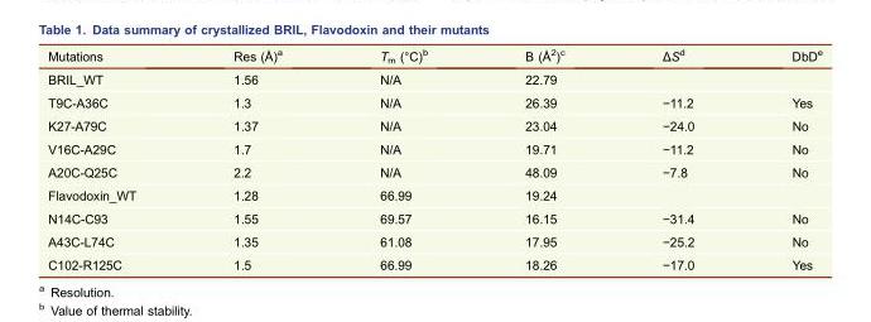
<table><thead><tr><td>Mutations</td><td>Res (Å)<sup>a</sup></td><td>T<sub>m</sub> (°C)<sup>b</sup></td><td>B (Å<sup>2</sup>)<sup>c</sup></td><td>ΔS<sup>d</sup></td><td>DbD<sup>e</sup></td></tr></thead><tbody><tr><td>BRIL_WT</td><td>1.56</td><td>N/A</td><td>22.79</td><td></td><td></td></tr><tr><td>T9C-A36C</td><td>1.3</td><td>N/A</td><td>26.39</td><td>−11.2</td><td>Yes</td></tr><tr><td>K27-A79C</td><td>1.37</td><td>N/A</td><td>23.04</td><td>−24.0</td><td>No</td></tr><tr><td>V16C-A29C</td><td>1.7</td><td>N/A</td><td>19.71</td><td>−11.2</td><td>No</td></tr><tr><td>A20C-Q25C</td><td>2.2</td><td>N/A</td><td>48.09</td><td>−7.8</td><td>No</td></tr><tr><td>Flavodoxin_WT</td><td>1.28</td><td>66.99</td><td>19.24</td><td></td><td></td></tr><tr><td>N14C-C93</td><td>1.55</td><td>69.57</td><td>16.15</td><td>−31.4</td><td>No</td></tr><tr><td>A43C-L74C</td><td>1.35</td><td>61.08</td><td>17.95</td><td>−25.2</td><td>No</td></tr><tr><td>C102-R125C</td><td>1.5</td><td>66.99</td><td>18.26</td><td>−17.0</td><td>Yes</td></tr></tbody></table>